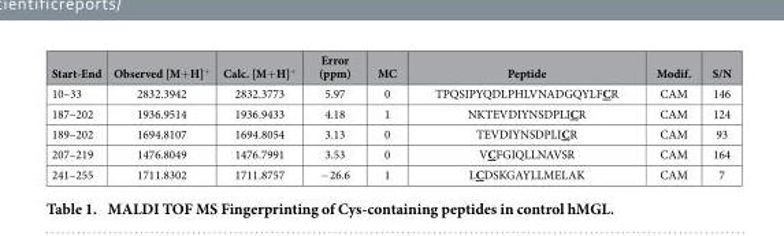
<table><thead><tr><td>Start-End</td><td>Observed [M+ H]<sup>+</sup></td><td>Calc. [M+ H]<sup>+</sup></td><td>Error (ppm)</td><td>MC</td><td>Peptide</td><td>Modif.</td><td>S/N</td></tr></thead><tbody><tr><td>10–33</td><td>2832.3942</td><td>2832.3773</td><td>5.97</td><td>0</td><td>TPQSIPYQDLPHLVNADGQYLFCR</td><td>CAM</td><td>146</td></tr><tr><td>187–202</td><td>1936.9514</td><td>1936.9433</td><td>4.18</td><td>1</td><td>NKTEVDIYNSDPLICR</td><td>CAM</td><td>124</td></tr><tr><td>189–202</td><td>1694.8107</td><td>1694.8054</td><td>3.13</td><td>0</td><td>TEVDIYNSDPLICR</td><td>CAM</td><td>93</td></tr><tr><td>207–219</td><td>1476.8049</td><td>1476.7991</td><td>3.53</td><td>0</td><td>VCFGIQLLNAVSR</td><td>CAM</td><td>164</td></tr><tr><td>241–255</td><td>1711.8302</td><td>1711.8757</td><td>− 26.6</td><td>1</td><td>LCDSKGAYLLMELAK</td><td>CAM</td><td>7</td></tr></tbody></table>